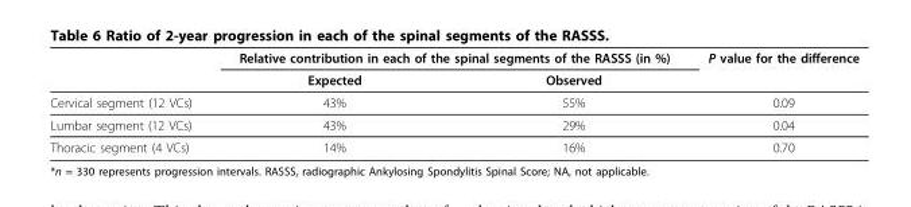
<table><thead><tr><td rowspan="2"></td><td colspan="2">Relative contribution in each of the spinal segments of the RASSS (in %)</td><td rowspan="2">P value for the difference</td></tr><tr><td>Expected</td><td>Observed</td></tr></thead><tbody><tr><td>Cervical segment (12 VCs)</td><td>43%</td><td>55%</td><td>0.09</td></tr><tr><td>Lumbar segment (12 VCs)</td><td>43%</td><td>29%</td><td>0.04</td></tr><tr><td>Thoracic segment (4 VCs)</td><td>14%</td><td>16%</td><td>0.70</td></tr></tbody></table>